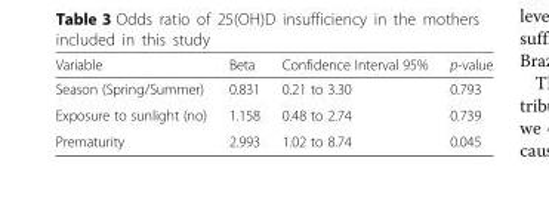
<table><thead><tr><td>Variable</td><td>Beta</td><td>Confidence Interval 95%</td><td>p-value</td></tr></thead><tbody><tr><td>Season (Spring/Summer)</td><td>0.831</td><td>0.21 to 3.30</td><td>0.793</td></tr><tr><td>Exposure to sunlight (no)</td><td>1.158</td><td>0.48 to 2.74</td><td>0.739</td></tr><tr><td>Prematurity</td><td>2.993</td><td>1.02 to 8.74</td><td>0.045</td></tr></tbody></table>